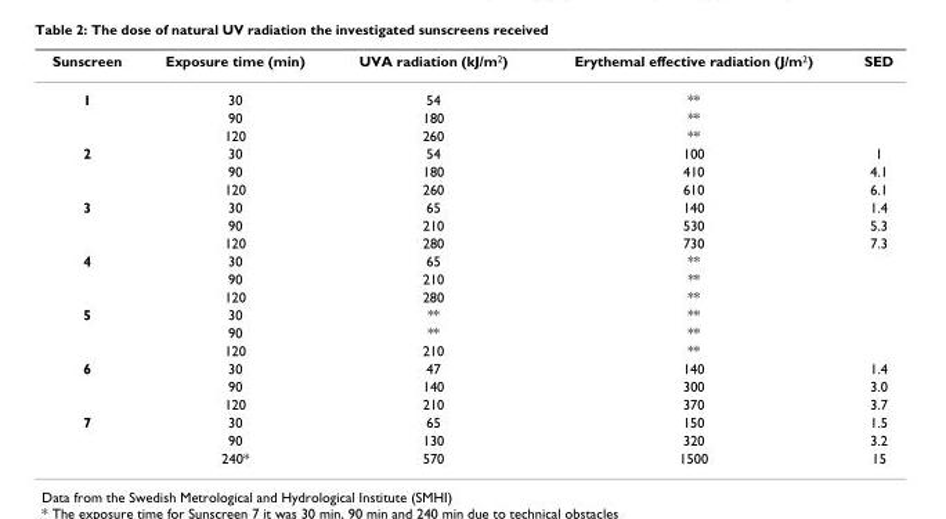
<table><thead><tr><td>Sunscreen</td><td>Exposure time (min)</td><td>UVA radiation (kJ/m2)</td><td>Erythemal effective radiation (J/m2)</td><td>SED</td></tr></thead><tbody><tr><td rowspan="3">1</td><td>30</td><td>54</td><td>**</td><td></td></tr><tr><td>90</td><td>180</td><td>**</td><td></td></tr><tr><td>120</td><td>260</td><td>**</td><td></td></tr><tr><td rowspan="3">2</td><td>30</td><td>54</td><td>100</td><td>1</td></tr><tr><td>90</td><td>180</td><td>410</td><td>4.1</td></tr><tr><td>120</td><td>260</td><td>610</td><td>6.1</td></tr><tr><td rowspan="3">3</td><td>30</td><td>65</td><td>140</td><td>1.4</td></tr><tr><td>90</td><td>210</td><td>530</td><td>5.3</td></tr><tr><td>120</td><td>280</td><td>730</td><td>7.3</td></tr><tr><td rowspan="3">4</td><td>30</td><td>65</td><td>**</td><td></td></tr><tr><td>90</td><td>210</td><td>**</td><td></td></tr><tr><td>120</td><td>280</td><td>**</td><td></td></tr><tr><td rowspan="3">5</td><td>30</td><td>**</td><td>**</td><td></td></tr><tr><td>90</td><td>**</td><td>**</td><td></td></tr><tr><td>120</td><td>210</td><td>**</td><td></td></tr><tr><td rowspan="3">6</td><td>30</td><td>47</td><td>140</td><td>1.4</td></tr><tr><td>90</td><td>140</td><td>300</td><td>3.0</td></tr><tr><td>120</td><td>210</td><td>370</td><td>3.7</td></tr><tr><td rowspan="3">7</td><td>30</td><td>65</td><td>150</td><td>1.5</td></tr><tr><td>90</td><td>130</td><td>320</td><td>3.2</td></tr><tr><td>240*</td><td>570</td><td>1500</td><td>15</td></tr></tbody></table>